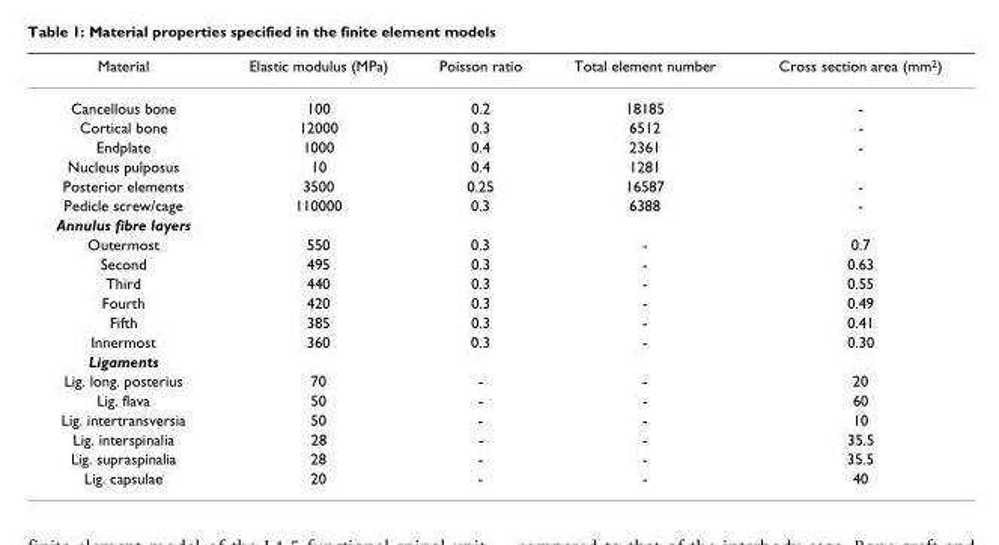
<table><thead><tr><td>Material</td><td>Elastic modulus (MPa)</td><td>Poisson ratio</td><td>Total element number</td><td>Cross section area (mm<sup>2</sup>)</td></tr></thead><tbody><tr><td>Cancellous bone</td><td>100</td><td>0.2</td><td>18185</td><td>-</td></tr><tr><td>Cortical bone</td><td>12000</td><td>0.3</td><td>6512</td><td>-</td></tr><tr><td>Endplate</td><td>1000</td><td>0.4</td><td>2361</td><td>-</td></tr><tr><td>Nucleus pulposus</td><td>10</td><td>0.4</td><td>1281</td><td></td></tr><tr><td>Posterior elements</td><td>3500</td><td>0.25</td><td>16587</td><td>-</td></tr><tr><td>Pedicle screw/cage</td><td>110000</td><td>0.3</td><td>6388</td><td>-</td></tr><tr><td colspan="5">Annulus fibre layers</td></tr><tr><td>Outermost</td><td>550</td><td>0.3</td><td>-</td><td>0.7</td></tr><tr><td>Second</td><td>495</td><td>0.3</td><td>-</td><td>0.63</td></tr><tr><td>Third</td><td>440</td><td>0.3</td><td>-</td><td>0.55</td></tr><tr><td>Fourth</td><td>420</td><td>0.3</td><td>-</td><td>0.49</td></tr><tr><td>Fifth</td><td>385</td><td>0.3</td><td>-</td><td>0.41</td></tr><tr><td>Innermost</td><td>360</td><td>0.3</td><td>-</td><td>0.30</td></tr><tr><td colspan="5">Ligaments</td></tr><tr><td>Lig. long. posterius</td><td>70</td><td>-</td><td>-</td><td>20</td></tr><tr><td>Lig. flava</td><td>50</td><td>-</td><td>-</td><td>60</td></tr><tr><td>Lig. intertransversia</td><td>50</td><td>-</td><td>-</td><td>10</td></tr><tr><td>Lig. interspinalia</td><td>28</td><td>-</td><td>-</td><td>35.5</td></tr><tr><td>Lig. supraspinalia</td><td>28</td><td>-</td><td>-</td><td>35.5</td></tr><tr><td>Lig. capsulae</td><td>20</td><td>-</td><td>-</td><td>40</td></tr></tbody></table>